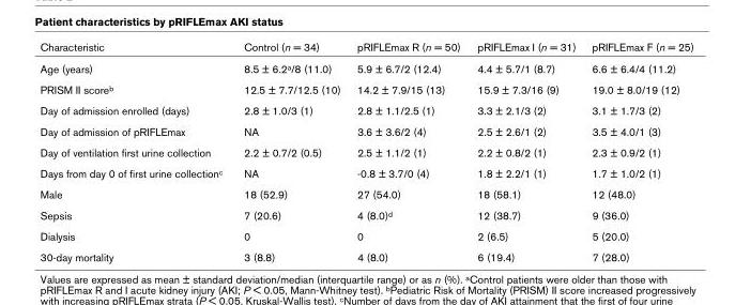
<table><thead><tr><td>Characteristic</td><td>Control (n = 34)</td><td>pRIFLEmax R (n = 50)</td><td>pRIFLEmax I (n = 31)</td><td>pRIFLEmax F (n = 25)</td></tr></thead><tbody><tr><td>Age (years)</td><td>8.5 ± 6.2<sup>a</sup>/8 (11.0)</td><td>5.9 ± 6.7/2 (12.4)</td><td>4.4 ± 5.7/1 (8.7)</td><td>6.6 ± 6.4/4 (11.2)</td></tr><tr><td>PRISM II score<sup>b</sup></td><td>12.5 ± 7.7/12.5 (10)</td><td>14.2 ± 7.9/15 (13)</td><td>15.9 ± 7.3/16 (9)</td><td>19.0 ± 8.0/19 (12)</td></tr><tr><td>Day of admission enrolled (days)</td><td>2.8 ± 1.0/3 (1)</td><td>2.8 ± 1.1/2.5 (1)</td><td>3.3 ± 2.1/3 (2)</td><td>3.1 ± 1.7/3 (2)</td></tr><tr><td>Day of admission of pRIFLEmax</td><td>NA</td><td>3.6 ± 3.6/2 (4)</td><td>2.5 ± 2.6/1 (2)</td><td>3.5 ± 4.0/1 (3)</td></tr><tr><td>Day of ventilation first urine collection</td><td>2.2 ± 0.7/2 (0.5)</td><td>2.5 ± 1.1/2 (1)</td><td>2.2 ± 0.8/2 (1)</td><td>2.3 ± 0.9/2 (1)</td></tr><tr><td>Days from day 0 of first urine collection<sup>c</sup></td><td>NA</td><td>-0.8 ± 3.7/0 (4)</td><td>1.8 ± 2.2/1 (1)</td><td>1.7 ± 1.0/2 (1)</td></tr><tr><td>Male</td><td>18 (52.9)</td><td>27 (54.0)</td><td>18 (58.1)</td><td>12 (48.0)</td></tr><tr><td>Sepsis</td><td>7 (20.6)</td><td>4 (8.0)<sup>d</sup></td><td>12 (38.7)</td><td>9 (36.0)</td></tr><tr><td>Dialysis</td><td>0</td><td>0</td><td>2 (6.5)</td><td>5 (20.0)</td></tr><tr><td>30-day mortality</td><td>3 (8.8)</td><td>4 (8.0)</td><td>6 (19.4)</td><td>7 (28.0)</td></tr></tbody></table>